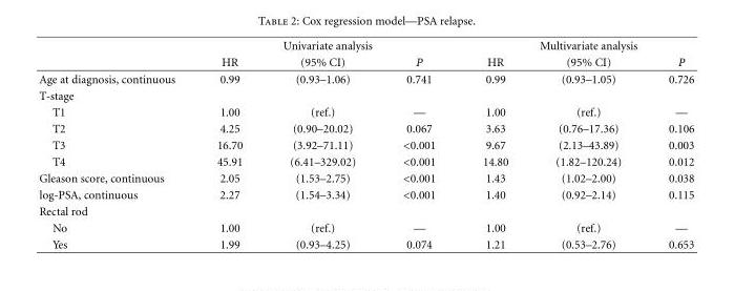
<table><thead><tr><td rowspan="2"></td><td colspan="3">Univariate analysis</td><td colspan="3">Multivariate analysis</td></tr><tr><td>HR</td><td>(95% CI)</td><td>P</td><td>HR</td><td>(95% CI)</td><td>P</td></tr></thead><tbody><tr><td>Age at diagnosis, continuous</td><td>0.99</td><td>(0.93–1.06)</td><td>0.741</td><td>0.99</td><td>(0.93–1.05)</td><td>0.726</td></tr><tr><td colspan="7">T-stage</td></tr><tr><td>T1</td><td>1.00</td><td>(ref.)</td><td>—</td><td>1.00</td><td>(ref.)</td><td>—</td></tr><tr><td>T2</td><td>4.25</td><td>(0.90–20.02)</td><td>0.067</td><td>3.63</td><td>(0.76–17.36)</td><td>0.106</td></tr><tr><td>T3</td><td>16.70</td><td>(3.92–71.11)</td><td>&lt;0.001</td><td>9.67</td><td>(2.13–43.89)</td><td>0.003</td></tr><tr><td>T4</td><td>45.91</td><td>(6.41–329.02)</td><td>&lt;0.001</td><td>14.80</td><td>(1.82–120.24)</td><td>0.012</td></tr><tr><td>Gleason score, continuous</td><td>2.05</td><td>(1.53–2.75)</td><td>&lt;0.001</td><td>1.43</td><td>(1.02–2.00)</td><td>0.038</td></tr><tr><td>log-PSA, continuous</td><td>2.27</td><td>(1.54–3.34)</td><td>&lt;0.001</td><td>1.40</td><td>(0.92–2.14)</td><td>0.115</td></tr><tr><td colspan="7">Rectal rod</td></tr><tr><td>No</td><td>1.00</td><td>(ref.)</td><td>—</td><td>1.00</td><td>(ref.)</td><td>—</td></tr><tr><td>Yes</td><td>1.99</td><td>(0.93–4.25)</td><td>0.074</td><td>1.21</td><td>(0.53–2.76)</td><td>0.653</td></tr></tbody></table>